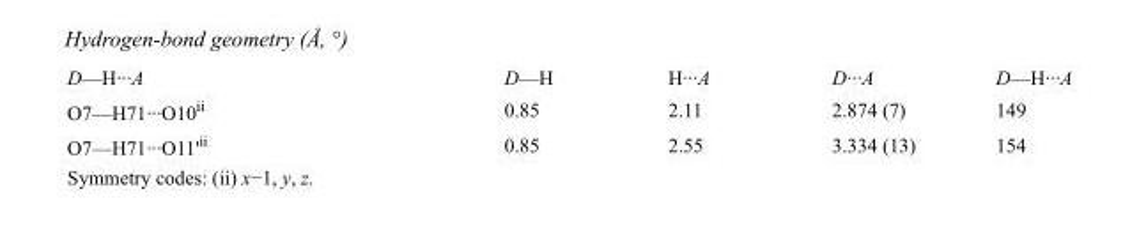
<table><tbody><tr><td>D—H···A</td><td>D—H</td><td>H···A</td><td>D···A</td><td>D—H···A</td></tr><tr><td>O7—H71···O10<sup>ii</sup></td><td>0.85</td><td>2.11</td><td>2.874 (7)</td><td>149</td></tr><tr><td>O7—H71···O11&#x27;<sup>ii</sup></td><td>0.85</td><td>2.55</td><td>3.334 (13)</td><td>154</td></tr></tbody></table>